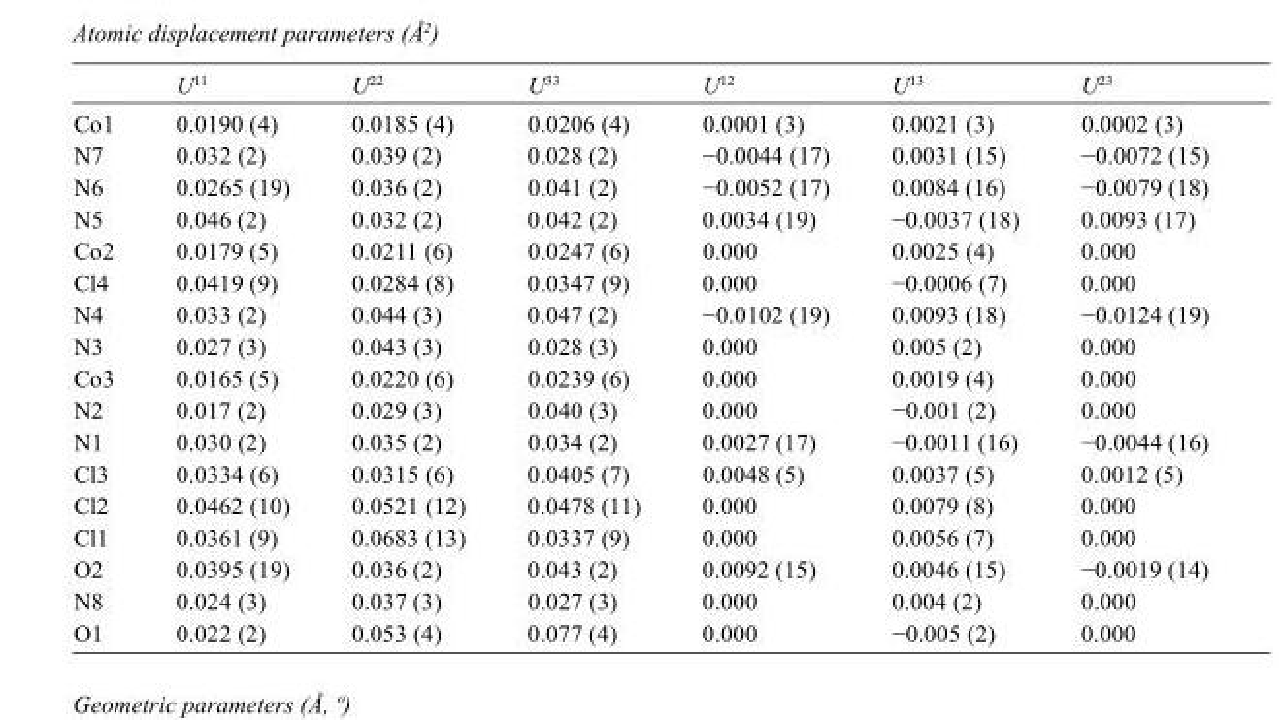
<table><thead><tr><td></td><td>U<sup>11</sup></td><td>U<sup>22</sup></td><td>U<sup>33</sup></td><td>U<sup>12</sup></td><td>U<sup>13</sup></td><td>U<sup>23</sup></td></tr></thead><tbody><tr><td>Co1</td><td>0.0190 (4)</td><td>0.0185 (4)</td><td>0.0206 (4)</td><td>0.0001 (3)</td><td>0.0021 (3)</td><td>0.0002 (3)</td></tr><tr><td>N7</td><td>0.032 (2)</td><td>0.039 (2)</td><td>0.028 (2)</td><td>−0.0044 (17)</td><td>0.0031 (15)</td><td>−0.0072 (15)</td></tr><tr><td>N6</td><td>0.0265 (19)</td><td>0.036 (2)</td><td>0.041 (2)</td><td>−0.0052 (17)</td><td>0.0084 (16)</td><td>−0.0079 (18)</td></tr><tr><td>N5</td><td>0.046 (2)</td><td>0.032 (2)</td><td>0.042 (2)</td><td>0.0034 (19)</td><td>−0.0037 (18)</td><td>0.0093 (17)</td></tr><tr><td>Co2</td><td>0.0179 (5)</td><td>0.0211 (6)</td><td>0.0247 (6)</td><td>0.000</td><td>0.0025 (4)</td><td>0.000</td></tr><tr><td>Cl4</td><td>0.0419 (9)</td><td>0.0284 (8)</td><td>0.0347 (9)</td><td>0.000</td><td>−0.0006 (7)</td><td>0.000</td></tr><tr><td>N4</td><td>0.033 (2)</td><td>0.044 (3)</td><td>0.047 (2)</td><td>−0.0102 (19)</td><td>0.0093 (18)</td><td>−0.0124 (19)</td></tr><tr><td>N3</td><td>0.027 (3)</td><td>0.043 (3)</td><td>0.028 (3)</td><td>0.000</td><td>0.005 (2)</td><td>0.000</td></tr><tr><td>Co3</td><td>0.0165 (5)</td><td>0.0220 (6)</td><td>0.0239 (6)</td><td>0.000</td><td>0.0019 (4)</td><td>0.000</td></tr><tr><td>N2</td><td>0.017 (2)</td><td>0.029 (3)</td><td>0.040 (3)</td><td>0.000</td><td>−0.001 (2)</td><td>0.000</td></tr><tr><td>N1</td><td>0.030 (2)</td><td>0.035 (2)</td><td>0.034 (2)</td><td>0.0027 (17)</td><td>−0.0011 (16)</td><td>−0.0044 (16)</td></tr><tr><td>Cl3</td><td>0.0334 (6)</td><td>0.0315 (6)</td><td>0.0405 (7)</td><td>0.0048 (5)</td><td>0.0037 (5)</td><td>0.0012 (5)</td></tr><tr><td>Cl2</td><td>0.0462 (10)</td><td>0.0521 (12)</td><td>0.0478 (11)</td><td>0.000</td><td>0.0079 (8)</td><td>0.000</td></tr><tr><td>Cl1</td><td>0.0361 (9)</td><td>0.0683 (13)</td><td>0.0337 (9)</td><td>0.000</td><td>0.0056 (7)</td><td>0.000</td></tr><tr><td>O2</td><td>0.0395 (19)</td><td>0.036 (2)</td><td>0.043 (2)</td><td>0.0092 (15)</td><td>0.0046 (15)</td><td>−0.0019 (14)</td></tr><tr><td>N8</td><td>0.024 (3)</td><td>0.037 (3)</td><td>0.027 (3)</td><td>0.000</td><td>0.004 (2)</td><td>0.000</td></tr><tr><td>O1</td><td>0.022 (2)</td><td>0.053 (4)</td><td>0.077 (4)</td><td>0.000</td><td>−0.005 (2)</td><td>0.000</td></tr></tbody></table>